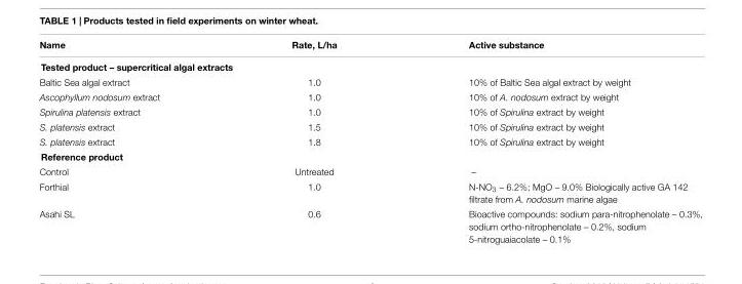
<table><thead><tr><td>Name</td><td>Rate, L/ha</td><td>Active substance</td></tr></thead><tbody><tr><td colspan="3">Tested product – supercritical algal extracts</td></tr><tr><td>Baltic Sea algal extract</td><td>1.0</td><td>10% of Baltic Sea algal extract by weight</td></tr><tr><td>Ascophyllum nodosum extract</td><td>1.0</td><td>10% of A. nodosum extract by weight</td></tr><tr><td>Spirulina platensis extract</td><td>1.0</td><td>10% of Spirulina extract by weight</td></tr><tr><td>S. platensis extract</td><td>1.5</td><td>10% of Spirulina extract by weight</td></tr><tr><td>S. platensis extract</td><td>1.8</td><td>10% of Spirulina extract by weight</td></tr><tr><td colspan="3">Reference product</td></tr><tr><td>Control</td><td>Untreated</td><td>–</td></tr><tr><td>Forthial</td><td>1.0</td><td>N-NO<sub>3</sub> – 6.2%; MgO – 9.0% Biologically active GA 142 filtrate from A. nodosum marine algae</td></tr><tr><td>Asahi SL</td><td>0.6</td><td>Bioactive compounds: sodium para-nitrophenolate – 0.3%, sodium ortho-nitrophenolate – 0.2%, sodium 5-nitroguaiacolate – 0.1%</td></tr></tbody></table>